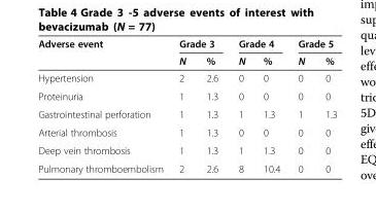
<table><thead><tr><td rowspan="2">Adverse event</td><td colspan="2">Grade 3</td><td colspan="2">Grade 4</td><td colspan="2">Grade 5</td></tr><tr><td>N</td><td>%</td><td>N</td><td>%</td><td>N</td><td>%</td></tr></thead><tbody><tr><td>Hypertension</td><td>2</td><td>2.6</td><td>0</td><td>0</td><td>0</td><td>0</td></tr><tr><td>Proteinuria</td><td>1</td><td>1.3</td><td>0</td><td>0</td><td>0</td><td>0</td></tr><tr><td>Gastrointestinal perforation</td><td>1</td><td>1.3</td><td>1</td><td>1.3</td><td>1</td><td>1.3</td></tr><tr><td>Arterial thrombosis</td><td>1</td><td>1.3</td><td>0</td><td>0</td><td>0</td><td>0</td></tr><tr><td>Deep vein thrombosis</td><td>1</td><td>1.3</td><td>1</td><td>1.3</td><td>0</td><td>0</td></tr><tr><td>Pulmonary thromboembolism</td><td>2</td><td>2.6</td><td>8</td><td>10.4</td><td>0</td><td>0</td></tr></tbody></table>